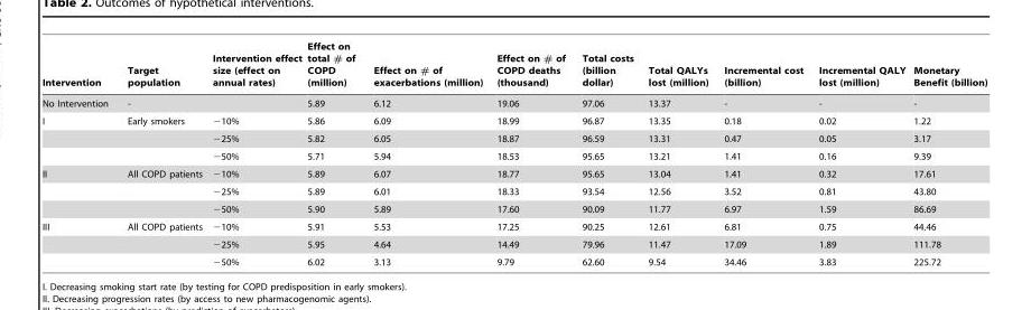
<table><thead><tr><td>Intervention</td><td>Target population</td><td>Intervention effect size (effect on annual rates)</td><td>Effect on total # of COPD (million)</td><td>Effect on # of exacerbations (million)</td><td>Effect on # of COPD deaths (thousand)</td><td>Total costs (billion dollar)</td><td>Total QALYs lost (million)</td><td>Incremental cost (billion)</td><td>Incremental QALY lost (million)</td><td>Monetary Benefit (billion)</td></tr></thead><tbody><tr><td>No Intervention</td><td>-</td><td></td><td>5.89</td><td>6.12</td><td>19.06</td><td>97.06</td><td>13.37</td><td>-</td><td>-</td><td>-</td></tr><tr><td rowspan="3">I</td><td>Early smokers</td><td>−10%</td><td>5.86</td><td>6.09</td><td>18.99</td><td>96.87</td><td>13.35</td><td>0.18</td><td>0.02</td><td>1.22</td></tr><tr><td></td><td>−25%</td><td>5.82</td><td>6.05</td><td>18.87</td><td>96.59</td><td>13.31</td><td>0.47</td><td>0.05</td><td>3.17</td></tr><tr><td></td><td>−50%</td><td>5.71</td><td>5.94</td><td>18.53</td><td>95.65</td><td>13.21</td><td>1.41</td><td>0.16</td><td>9.39</td></tr><tr><td rowspan="3">II</td><td>All COPD patients</td><td>−10%</td><td>5.89</td><td>6.07</td><td>18.77</td><td>95.65</td><td>13.04</td><td>1.41</td><td>0.32</td><td>17.61</td></tr><tr><td></td><td>−25%</td><td>5.89</td><td>6.01</td><td>18.33</td><td>93.54</td><td>12.56</td><td>3.52</td><td>0.81</td><td>43.80</td></tr><tr><td></td><td>−50%</td><td>5.90</td><td>5.89</td><td>17.60</td><td>90.09</td><td>11.77</td><td>6.97</td><td>1.59</td><td>86.69</td></tr><tr><td rowspan="3">III</td><td>All COPD patients</td><td>−10%</td><td>5.91</td><td>5.53</td><td>17.25</td><td>90.25</td><td>12.61</td><td>6.81</td><td>0.75</td><td>44.46</td></tr><tr><td></td><td>−25%</td><td>5.95</td><td>4.64</td><td>14.49</td><td>79.96</td><td>11.47</td><td>17.09</td><td>1.89</td><td>111.78</td></tr><tr><td></td><td>−50%</td><td>6.02</td><td>3.13</td><td>9.79</td><td>62.60</td><td>9.54</td><td>34.46</td><td>3.83</td><td>225.72</td></tr></tbody></table>